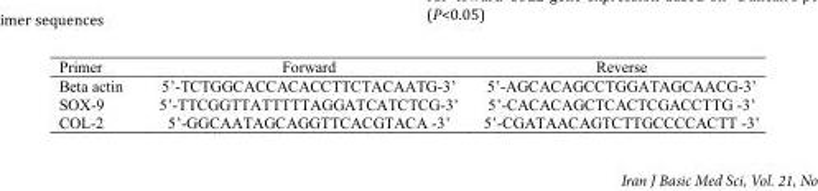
<table><thead><tr><td>Primer</td><td>Forward</td><td>Reverse</td></tr></thead><tbody><tr><td>Beta actin</td><td>5’-TCTGGCACCACACCTTCTACAATG-3’</td><td>5’-AGCACAGCCTGGATAGCAACG-3’</td></tr><tr><td>SOX-9</td><td>5’-TTCGGTTATTTTTAGGATCATCTCG-3’</td><td>5’-CACACAGCTCACTCGACCTTG -3’</td></tr><tr><td>COL-2</td><td>5’-GGCAATAGCAGGTTCACGTACA -3’</td><td>5’-CGATAACAGTCTTGCCCCACTT -3’</td></tr></tbody></table>